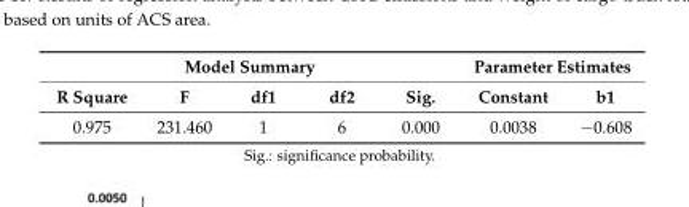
<table><thead><tr><td colspan="5">Model Summary</td><td colspan="2">Parameter Estimates</td></tr><tr><td>R Square</td><td>F</td><td>df1</td><td>df2</td><td>Sig.</td><td>Constant</td><td>b1</td></tr></thead><tbody><tr><td>0.975</td><td>231.460</td><td>1</td><td>6</td><td>0.000</td><td>0.0038</td><td>−0.608</td></tr></tbody></table>